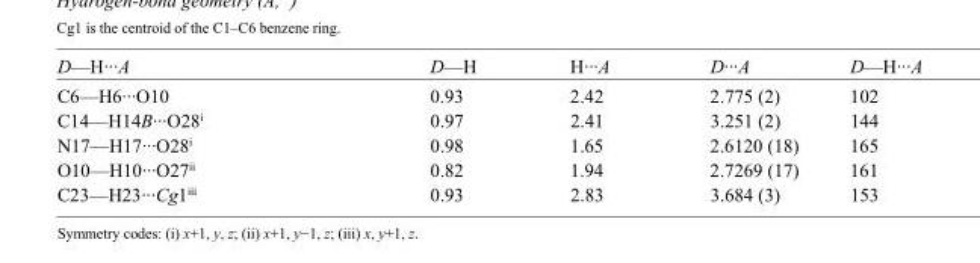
<table><tbody><tr><td>D—H···A</td><td>D—H</td><td>H···A</td><td>D···A</td><td>D—H···A</td></tr><tr><td>C6—H6···O10</td><td>0.93</td><td>2.42</td><td>2.775 (2)</td><td>102</td></tr><tr><td>C14—H14B···O28<sup>i</sup></td><td>0.97</td><td>2.41</td><td>3.251 (2)</td><td>144</td></tr><tr><td>N17—H17···O28<sup>i</sup></td><td>0.98</td><td>1.65</td><td>2.6120 (18)</td><td>165</td></tr><tr><td>O10—H10···O27<sup>ii</sup></td><td>0.82</td><td>1.94</td><td>2.7269 (17)</td><td>161</td></tr><tr><td>C23—H23···Cg1<sup>iii</sup></td><td>0.93</td><td>2.83</td><td>3.684 (3)</td><td>153</td></tr></tbody></table>